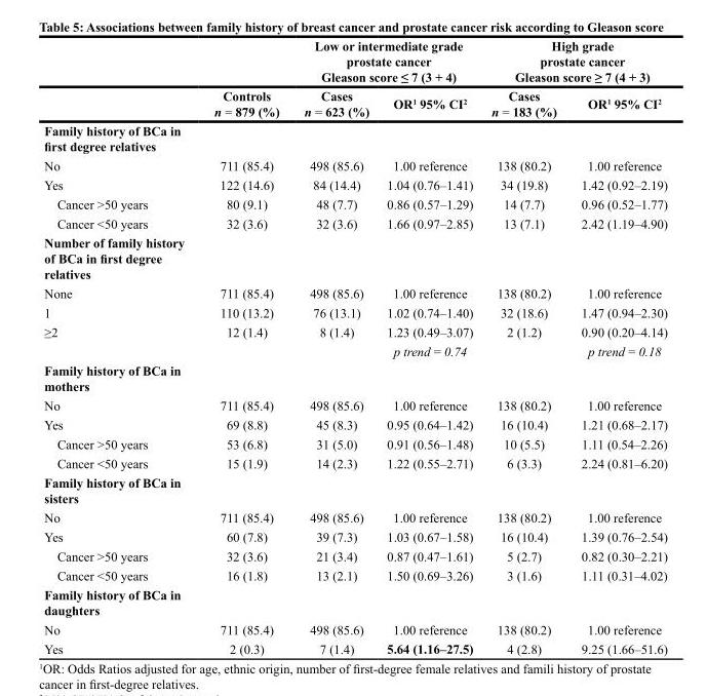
<table><thead><tr><td rowspan="2"></td><td rowspan="2">Controls n = 879 (%)</td><td colspan="2">Low or intermediate grade prostate cancer Gleason score ≤ 7 (3 + 4)</td><td colspan="2">High grade prostate cancer Gleason score ≥ 7 (4 + 3)</td></tr><tr><td>Cases n = 623 (%)</td><td>OR<sup>1</sup> 95% CI<sup>2</sup></td><td>Cases n = 183 (%)</td><td>OR<sup>1</sup> 95% CI<sup>2</sup></td></tr></thead><tbody><tr><td colspan="6">Family history of BCa in first degree relatives</td></tr><tr><td>No</td><td>711 (85.4)</td><td>498 (85.6)</td><td>1.00 reference</td><td>138 (80.2)</td><td>1.00 reference</td></tr><tr><td>Yes</td><td>122 (14.6)</td><td>84 (14.4)</td><td>1.04 (0.76–1.41)</td><td>34 (19.8)</td><td>1.42 (0.92–2.19)</td></tr><tr><td>Cancer &gt;50 years</td><td>80 (9.1)</td><td>48 (7.7)</td><td>0.86 (0.57–1.29)</td><td>14 (7.7)</td><td>0.96 (0.52–1.77)</td></tr><tr><td>Cancer &lt;50 years</td><td>32 (3.6)</td><td>32 (3.6)</td><td>1.66 (0.97–2.85)</td><td>13 (7.1)</td><td>2.42 (1.19–4.90)</td></tr><tr><td colspan="6">Number of family history of BCa in first degree relatives</td></tr><tr><td>None</td><td>711 (85.4)</td><td>498 (85.6)</td><td>1.00 reference</td><td>138 (80.2)</td><td>1.00 reference</td></tr><tr><td>1</td><td>110 (13.2)</td><td>76 (13.1)</td><td>1.02 (0.74–1.40)</td><td>32 (18.6)</td><td>1.47 (0.94–2.30)</td></tr><tr><td rowspan="2">≥2</td><td>12 (1.4)</td><td>8 (1.4)</td><td>1.23 (0.49–3.07)</td><td>2 (1.2)</td><td>0.90 (0.20–4.14)</td></tr><tr><td></td><td></td><td>p trend = 0.74</td><td></td><td>p trend = 0.18</td></tr><tr><td colspan="6">Family history of BCa in mothers</td></tr><tr><td>No</td><td>711 (85.4)</td><td>498 (85.6)</td><td>1.00 reference</td><td>138 (80.2)</td><td>1.00 reference</td></tr><tr><td>Yes</td><td>69 (8.8)</td><td>45 (8.3)</td><td>0.95 (0.64–1.42)</td><td>16 (10.4)</td><td>1.21 (0.68–2.17)</td></tr><tr><td>Cancer &gt;50 years</td><td>53 (6.8)</td><td>31 (5.0)</td><td>0.91 (0.56–1.48)</td><td>10 (5.5)</td><td>1.11 (0.54–2.26)</td></tr><tr><td>Cancer &lt;50 years</td><td>15 (1.9)</td><td>14 (2.3)</td><td>1.22 (0.55–2.71)</td><td>6 (3.3)</td><td>2.24 (0.81–6.20)</td></tr><tr><td colspan="6">Family history of BCa in sisters</td></tr><tr><td>No</td><td>711 (85.4)</td><td>498 (85.6)</td><td>1.00 reference</td><td>138 (80.2)</td><td>1.00 reference</td></tr><tr><td>Yes</td><td>60 (7.8)</td><td>39 (7.3)</td><td>1.03 (0.67–1.58)</td><td>16 (10.4)</td><td>1.39 (0.76–2.54)</td></tr><tr><td>Cancer &gt;50 years</td><td>32 (3.6)</td><td>21 (3.4)</td><td>0.87 (0.47–1.61)</td><td>5 (2.7)</td><td>0.82 (0.30–2.21)</td></tr><tr><td>Cancer &lt;50 years</td><td>16 (1.8)</td><td>13 (2.1)</td><td>1.50 (0.69–3.26)</td><td>3 (1.6)</td><td>1.11 (0.31–4.02)</td></tr><tr><td colspan="6">Family history of BCa in daughters</td></tr><tr><td>No</td><td>711 (85.4)</td><td>498 (85.6)</td><td>1.00 reference</td><td>138 (80.2)</td><td>1.00 reference</td></tr><tr><td>Yes</td><td>2 (0.3)</td><td>7 (1.4)</td><td>5.64 (1.16–27.5)</td><td>4 (2.8)</td><td>9.25 (1.66–51.6)</td></tr></tbody></table>